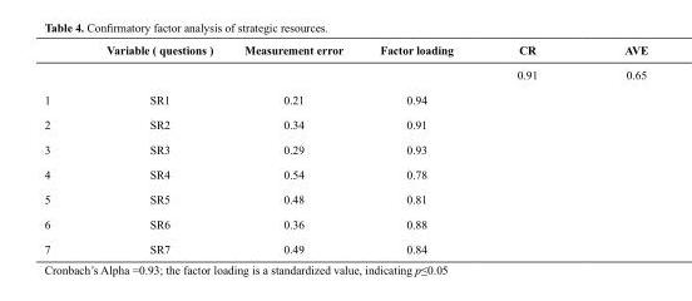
<table><thead><tr><td></td><td>Variable ( questions )</td><td>Measurement error</td><td>Factor loading</td><td>CR</td><td>AVE</td></tr></thead><tbody><tr><td colspan="4"></td><td>0.91</td><td>0.65</td></tr><tr><td>1</td><td>SR1</td><td>0.21</td><td>0.94</td><td rowspan="7" colspan="2"></td></tr><tr><td>2</td><td>SR2</td><td>0.34</td><td>0.91</td></tr><tr><td>3</td><td>SR3</td><td>0.29</td><td>0.93</td></tr><tr><td>4</td><td>SR4</td><td>0.54</td><td>0.78</td></tr><tr><td>5</td><td>SR5</td><td>0.48</td><td>0.81</td></tr><tr><td>6</td><td>SR6</td><td>0.36</td><td>0.88</td></tr><tr><td>7</td><td>SR7</td><td>0.49</td><td>0.84</td></tr></tbody></table>